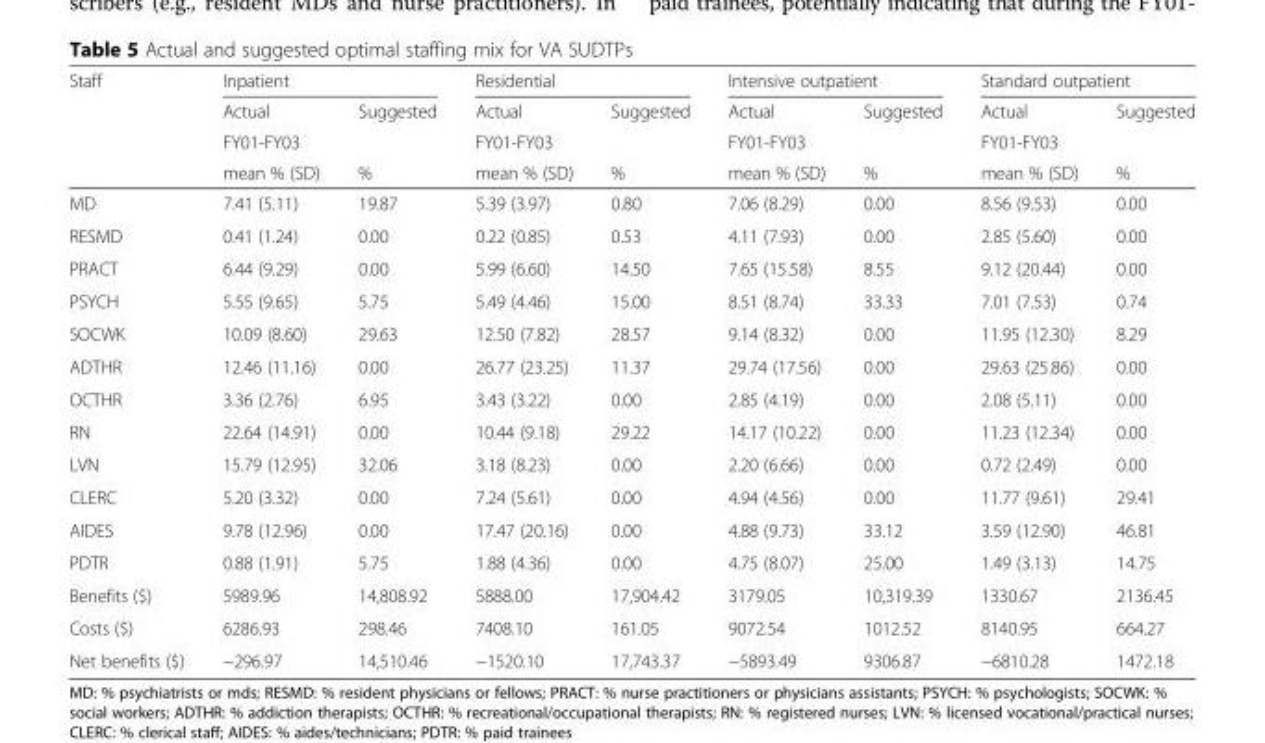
<table><thead><tr><td rowspan="4">Staff</td><td colspan="2">Inpatient</td><td colspan="2">Residential</td><td colspan="2">Intensive outpatient</td><td colspan="2">Standard outpatient</td></tr><tr><td rowspan="3">Actual FY01-FY03 mean % (SD)</td><td rowspan="3">Suggested %</td><td rowspan="3">Actual FY01-FY03 mean % (SD)</td><td rowspan="3">Suggested %</td><td rowspan="3">Actual FY01-FY03 mean % (SD)</td><td rowspan="3">Suggested %</td><td rowspan="3">Actual FY01-FY03 mean % (SD)</td><td rowspan="3">Suggested %</td></tr><tr></tr><tr></tr></thead><tbody><tr><td>MD</td><td>7.41 (5.11)</td><td>19.87</td><td>5.39 (3.97)</td><td>0.80</td><td>7.06 (8.29)</td><td>0.00</td><td>8.56 (9.53)</td><td>0.00</td></tr><tr><td>RESMD</td><td>0.41 (1.24)</td><td>0.00</td><td>0.22 (0.85)</td><td>0.53</td><td>4.11 (7.93)</td><td>0.00</td><td>2.85 (5.60)</td><td>0.00</td></tr><tr><td>PRACT</td><td>6.44 (9.29)</td><td>0.00</td><td>5.99 (6.60)</td><td>14.50</td><td>7.65 (15.58)</td><td>8.55</td><td>9.12 (20.44)</td><td>0.00</td></tr><tr><td>PSYCH</td><td>5.55 (9.65)</td><td>5.75</td><td>5.49 (4.46)</td><td>15.00</td><td>8.51 (8.74)</td><td>33.33</td><td>7.01 (7.53)</td><td>0.74</td></tr><tr><td>SOCWK</td><td>10.09 (8.60)</td><td>29.63</td><td>12.50 (7.82)</td><td>28.57</td><td>9.14 (8.32)</td><td>0.00</td><td>11.95 (12.30)</td><td>8.29</td></tr><tr><td>ADTHR</td><td>12.46 (11.16)</td><td>0.00</td><td>26.77 (23.25)</td><td>11.37</td><td>29.74 (17.56)</td><td>0.00</td><td>29.63 (25.86)</td><td>0.00</td></tr><tr><td>OCTHR</td><td>3.36 (2.76)</td><td>6.95</td><td>3.43 (3.22)</td><td>0.00</td><td>2.85 (4.19)</td><td>0.00</td><td>2.08 (5.11)</td><td>0.00</td></tr><tr><td>RN</td><td>22.64 (14.91)</td><td>0.00</td><td>10.44 (9.18)</td><td>29.22</td><td>14.17 (10.22)</td><td>0.00</td><td>11.23 (12.34)</td><td>0.00</td></tr><tr><td>LVN</td><td>15.79 (12.95)</td><td>32.06</td><td>3.18 (8.23)</td><td>0.00</td><td>2.20 (6.66)</td><td>0.00</td><td>0.72 (2.49)</td><td>0.00</td></tr><tr><td>CLERC</td><td>5.20 (3.32)</td><td>0.00</td><td>7.24 (5.61)</td><td>0.00</td><td>4.94 (4.56)</td><td>0.00</td><td>11.77 (9.61)</td><td>29.41</td></tr><tr><td>AIDES</td><td>9.78 (12.96)</td><td>0.00</td><td>17.47 (20.16)</td><td>0.00</td><td>4.88 (9.73)</td><td>33.12</td><td>3.59 (12.90)</td><td>46.81</td></tr><tr><td>PDTR</td><td>0.88 (1.91)</td><td>5.75</td><td>1.88 (4.36)</td><td>0.00</td><td>4.75 (8.07)</td><td>25.00</td><td>1.49 (3.13)</td><td>14.75</td></tr><tr><td>Benefits ($)</td><td>5989.96</td><td>14,808.92</td><td>5888.00</td><td>17,904.42</td><td>3179.05</td><td>10,319.39</td><td>1330.67</td><td>2136.45</td></tr><tr><td>Costs ($)</td><td>6286.93</td><td>298.46</td><td>7408.10</td><td>161.05</td><td>9072.54</td><td>1012.52</td><td>8140.95</td><td>664.27</td></tr><tr><td>Net benefits ($)</td><td>−296.97</td><td>14,510.46</td><td>−1520.10</td><td>17,743.37</td><td>−5893.49</td><td>9306.87</td><td>−6810.28</td><td>1472.18</td></tr></tbody></table>